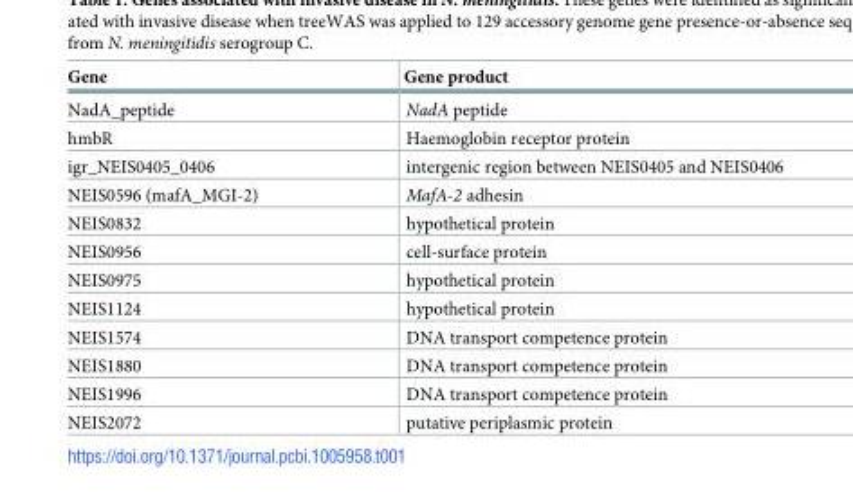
<table><thead><tr><td>Gene</td><td>Gene product</td></tr></thead><tbody><tr><td>NadA_peptide</td><td>NadA peptide</td></tr><tr><td>hmbR</td><td>Haemoglobin receptor protein</td></tr><tr><td>igr_NEIS0405_0406</td><td>intergenic region between NEIS0405 and NEIS0406</td></tr><tr><td>NEIS0596 (mafA_MGI-2)</td><td>MafA-2 adhesin</td></tr><tr><td>NEIS0832</td><td>hypothetical protein</td></tr><tr><td>NEIS0956</td><td>cell-surface protein</td></tr><tr><td>NEIS0975</td><td>hypothetical protein</td></tr><tr><td>NEIS1124</td><td>hypothetical protein</td></tr><tr><td>NEIS1574</td><td>DNA transport competence protein</td></tr><tr><td>NEIS1880</td><td>DNA transport competence protein</td></tr><tr><td>NEIS1996</td><td>DNA transport competence protein</td></tr><tr><td>NEIS2072</td><td>putative periplasmic protein</td></tr></tbody></table>